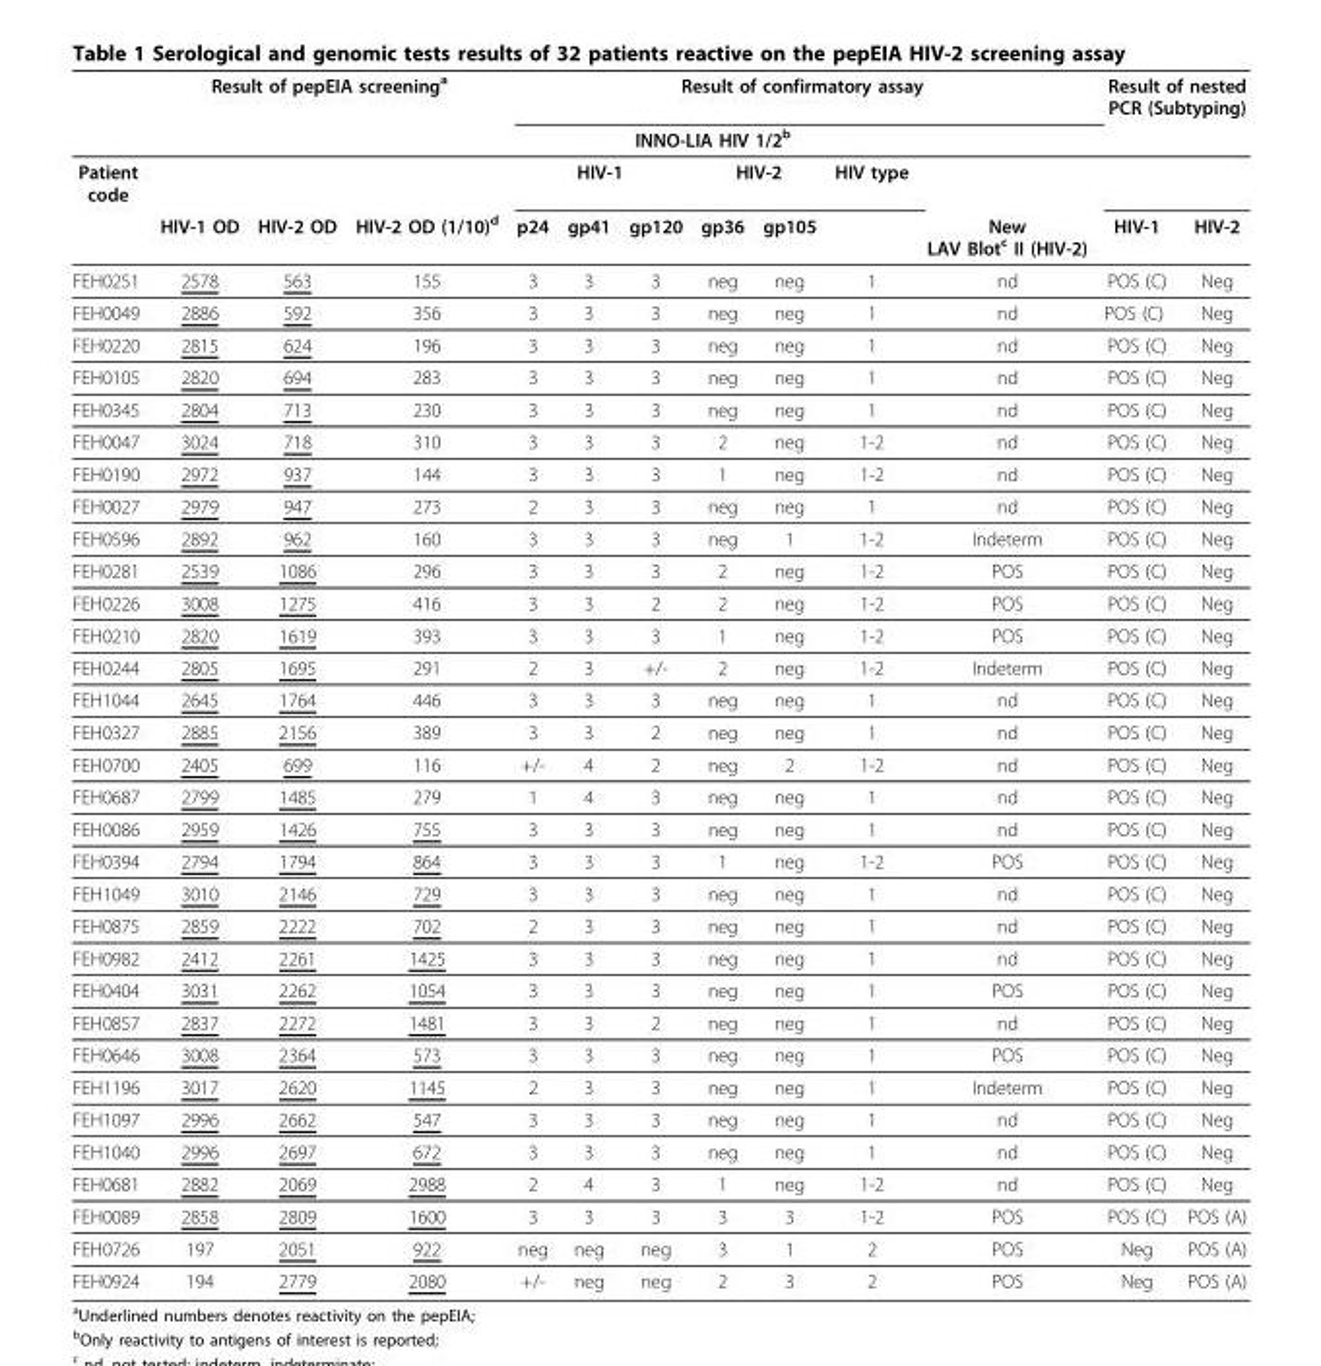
<table><thead><tr><td rowspan="4">Patient code</td><td colspan="3">Result of pepEIA screening<sup>a</sup></td><td colspan="7">Result of confirmatory assay</td><td colspan="2">Result of nested PCR (Subtyping)</td></tr><tr><td rowspan="3">HIV-1 OD</td><td rowspan="3">HIV-2 OD</td><td rowspan="3">HIV-2 OD (1/10)<sup>d</sup></td><td colspan="6">INNO-LIA HIV 1/2<sup>b</sup></td><td rowspan="3">New LAV Blot<sup>c</sup> II (HIV-2)</td><td rowspan="3">HIV-1</td><td rowspan="3">HIV-2</td></tr><tr><td colspan="3">HIV-1</td><td colspan="2">HIV-2</td><td rowspan="2">HIV type</td></tr><tr><td>p24</td><td>gp41</td><td>gp120</td><td>gp36</td><td>gp105</td></tr></thead><tbody><tr><td>FEH0251</td><td>2578</td><td>563</td><td>155</td><td>3</td><td>3</td><td>3</td><td>neg</td><td>neg</td><td>1</td><td>nd</td><td>POS (C)</td><td>Neg</td></tr><tr><td>FEH0049</td><td>2886</td><td>592</td><td>356</td><td>3</td><td>3</td><td>3</td><td>neg</td><td>neg</td><td>1</td><td>nd</td><td>POS (C)</td><td>Neg</td></tr><tr><td>FEH0220</td><td>2815</td><td>624</td><td>196</td><td>3</td><td>3</td><td>3</td><td>neg</td><td>neg</td><td>1</td><td>nd</td><td>POS (C)</td><td>Neg</td></tr><tr><td>FEH0105</td><td>2820</td><td>694</td><td>283</td><td>3</td><td>3</td><td>3</td><td>neg</td><td>neg</td><td>1</td><td>nd</td><td>POS (C)</td><td>Neg</td></tr><tr><td>FEH0345</td><td>2804</td><td>713</td><td>230</td><td>3</td><td>3</td><td>3</td><td>neg</td><td>neg</td><td>1</td><td>nd</td><td>POS (C)</td><td>Neg</td></tr><tr><td>FEH0047</td><td>3024</td><td>718</td><td>310</td><td>3</td><td>3</td><td>3</td><td>2</td><td>neg</td><td>1-2</td><td>nd</td><td>POS (C)</td><td>Neg</td></tr><tr><td>FEH0190</td><td>2972</td><td>937</td><td>144</td><td>3</td><td>3</td><td>3</td><td>1</td><td>neg</td><td>1-2</td><td>nd</td><td>POS (C)</td><td>Neg</td></tr><tr><td>FEH0027</td><td>2979</td><td>947</td><td>273</td><td>2</td><td>3</td><td>3</td><td>neg</td><td>neg</td><td>1</td><td>nd</td><td>POS (C)</td><td>Neg</td></tr><tr><td>FEH0596</td><td>2892</td><td>962</td><td>160</td><td>3</td><td>3</td><td>3</td><td>neg</td><td>1</td><td>1-2</td><td>Indeterm</td><td>POS (C)</td><td>Neg</td></tr><tr><td>FEH0281</td><td>2539</td><td>1086</td><td>296</td><td>3</td><td>3</td><td>3</td><td>2</td><td>neg</td><td>1-2</td><td>POS</td><td>POS (C)</td><td>Neg</td></tr><tr><td>FEH0226</td><td>3008</td><td>1275</td><td>416</td><td>3</td><td>3</td><td>2</td><td>2</td><td>neg</td><td>1-2</td><td>POS</td><td>POS (C)</td><td>Neg</td></tr><tr><td>FEH0210</td><td>2820</td><td>1619</td><td>393</td><td>3</td><td>3</td><td>3</td><td>1</td><td>neg</td><td>1-2</td><td>POS</td><td>POS (C)</td><td>Neg</td></tr><tr><td>FEH0244</td><td>2805</td><td>1695</td><td>291</td><td>2</td><td>3</td><td>+/-</td><td>2</td><td>neg</td><td>1-2</td><td>Indeterm</td><td>POS (C)</td><td>Neg</td></tr><tr><td>FEH1044</td><td>2645</td><td>1764</td><td>446</td><td>3</td><td>3</td><td>3</td><td>neg</td><td>neg</td><td>1</td><td>nd</td><td>POS (C)</td><td>Neg</td></tr><tr><td>FEH0327</td><td>2885</td><td>2156</td><td>389</td><td>3</td><td>3</td><td>2</td><td>neg</td><td>neg</td><td>1</td><td>nd</td><td>POS (C)</td><td>Neg</td></tr><tr><td>FEH0700</td><td>2405</td><td>699</td><td>116</td><td>+/-</td><td>4</td><td>2</td><td>neg</td><td>2</td><td>1-2</td><td>nd</td><td>POS (C)</td><td>Neg</td></tr><tr><td>FEH0687</td><td>2799</td><td>1485</td><td>279</td><td>1</td><td>4</td><td>3</td><td>neg</td><td>neg</td><td>1</td><td>nd</td><td>POS (C)</td><td>Neg</td></tr><tr><td>FEH0086</td><td>2959</td><td>1426</td><td>755</td><td>3</td><td>3</td><td>3</td><td>neg</td><td>neg</td><td>1</td><td>nd</td><td>POS (C)</td><td>Neg</td></tr><tr><td>FEH0394</td><td>2794</td><td>1794</td><td>864</td><td>3</td><td>3</td><td>3</td><td>1</td><td>neg</td><td>1-2</td><td>POS</td><td>POS (C)</td><td>Neg</td></tr><tr><td>FEH1049</td><td>3010</td><td>2146</td><td>729</td><td>3</td><td>3</td><td>3</td><td>neg</td><td>neg</td><td>1</td><td>nd</td><td>POS (C)</td><td>Neg</td></tr><tr><td>FEH0875</td><td>2859</td><td>2222</td><td>702</td><td>2</td><td>3</td><td>3</td><td>neg</td><td>neg</td><td>1</td><td>nd</td><td>POS (C)</td><td>Neg</td></tr><tr><td>FEH0982</td><td>2412</td><td>2261</td><td>1425</td><td>3</td><td>3</td><td>3</td><td>neg</td><td>neg</td><td>1</td><td>nd</td><td>POS (C)</td><td>Neg</td></tr><tr><td>FEH0404</td><td>3031</td><td>2262</td><td>1054</td><td>3</td><td>3</td><td>3</td><td>neg</td><td>neg</td><td>1</td><td>POS</td><td>POS (C)</td><td>Neg</td></tr><tr><td>FEH0857</td><td>2837</td><td>2272</td><td>1481</td><td>3</td><td>3</td><td>2</td><td>neg</td><td>neg</td><td>1</td><td>nd</td><td>POS (C)</td><td>Neg</td></tr><tr><td>FEH0646</td><td>3008</td><td>2364</td><td>573</td><td>3</td><td>3</td><td>3</td><td>neg</td><td>neg</td><td>1</td><td>POS</td><td>POS (C)</td><td>Neg</td></tr><tr><td>FEH1196</td><td>3017</td><td>2620</td><td>1145</td><td>2</td><td>3</td><td>3</td><td>neg</td><td>neg</td><td>1</td><td>Indeterm</td><td>POS (C)</td><td>Neg</td></tr><tr><td>FEH1097</td><td>2996</td><td>2662</td><td>547</td><td>3</td><td>3</td><td>3</td><td>neg</td><td>neg</td><td>1</td><td>nd</td><td>POS (C)</td><td>Neg</td></tr><tr><td>FEH1040</td><td>2996</td><td>2697</td><td>672</td><td>3</td><td>3</td><td>3</td><td>neg</td><td>neg</td><td>1</td><td>nd</td><td>POS (C)</td><td>Neg</td></tr><tr><td>FEH0681</td><td>2882</td><td>2069</td><td>2988</td><td>2</td><td>4</td><td>3</td><td>1</td><td>neg</td><td>1-2</td><td>nd</td><td>POS (C)</td><td>Neg</td></tr><tr><td>FEH0089</td><td>2858</td><td>2809</td><td>1600</td><td>3</td><td>3</td><td>3</td><td>3</td><td>3</td><td>1-2</td><td>POS</td><td>POS (C)</td><td>POS (A)</td></tr><tr><td>FEH0726</td><td>197</td><td>2051</td><td>922</td><td>neg</td><td>neg</td><td>neg</td><td>3</td><td>1</td><td>2</td><td>POS</td><td>Neg</td><td>POS (A)</td></tr><tr><td>FEH0924</td><td>194</td><td>2779</td><td>2080</td><td>+/-</td><td>neg</td><td>neg</td><td>2</td><td>3</td><td>2</td><td>POS</td><td>Neg</td><td>POS (A)</td></tr></tbody></table>